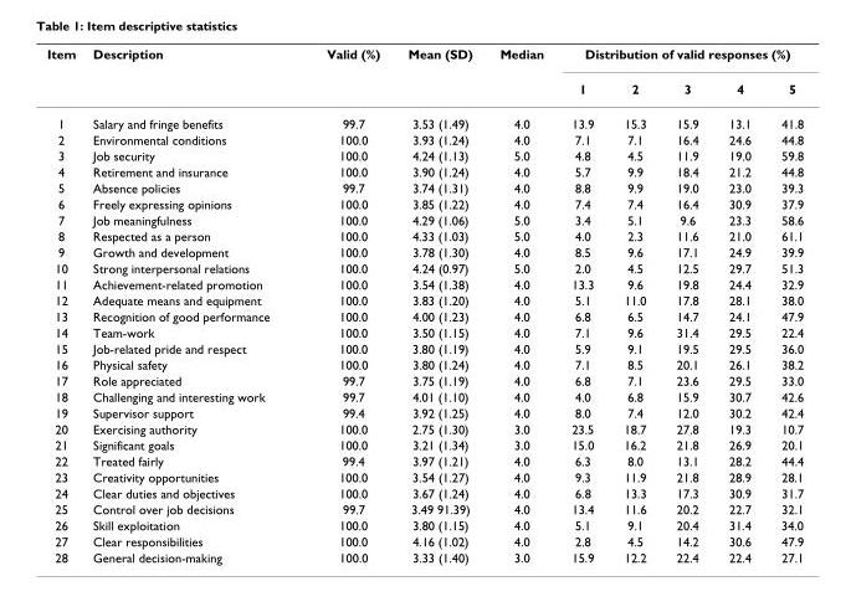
<table><thead><tr><td rowspan="2">Item</td><td rowspan="2">Description</td><td rowspan="2">Valid (%)</td><td rowspan="2">Mean (SD)</td><td rowspan="2">Median</td><td colspan="5">Distribution of valid responses (%)</td></tr><tr><td>1</td><td>2</td><td>3</td><td>4</td><td>5</td></tr></thead><tbody><tr><td>1</td><td>Salary and fringe benefits</td><td>99.7</td><td>3.53 (1.49)</td><td>4.0</td><td>13.9</td><td>15.3</td><td>15.9</td><td>13.1</td><td>41.8</td></tr><tr><td>2</td><td>Environmental conditions</td><td>100.0</td><td>3.93 (1.24)</td><td>4.0</td><td>7.1</td><td>7.1</td><td>16.4</td><td>24.6</td><td>44.8</td></tr><tr><td>3</td><td>Job security</td><td>100.0</td><td>4.24 (1.13)</td><td>5.0</td><td>4.8</td><td>4.5</td><td>11.9</td><td>19.0</td><td>59.8</td></tr><tr><td>4</td><td>Retirement and insurance</td><td>100.0</td><td>3.90 (1.24)</td><td>4.0</td><td>5.7</td><td>9.9</td><td>18.4</td><td>21.2</td><td>44.8</td></tr><tr><td>5</td><td>Absence policies</td><td>99.7</td><td>3.74 (1.31)</td><td>4.0</td><td>8.8</td><td>9.9</td><td>19.0</td><td>23.0</td><td>39.3</td></tr><tr><td>6</td><td>Freely expressing opinions</td><td>100.0</td><td>3.85 (1.22)</td><td>4.0</td><td>7.4</td><td>7.4</td><td>16.4</td><td>30.9</td><td>37.9</td></tr><tr><td>7</td><td>Job meaningfulness</td><td>100.0</td><td>4.29 (1.06)</td><td>5.0</td><td>3.4</td><td>5.1</td><td>9.6</td><td>23.3</td><td>58.6</td></tr><tr><td>8</td><td>Respected as a person</td><td>100.0</td><td>4.33 (1.03)</td><td>5.0</td><td>4.0</td><td>2.3</td><td>11.6</td><td>21.0</td><td>61.1</td></tr><tr><td>9</td><td>Growth and development</td><td>100.0</td><td>3.78 (1.30)</td><td>4.0</td><td>8.5</td><td>9.6</td><td>17.1</td><td>24.9</td><td>39.9</td></tr><tr><td>10</td><td>Strong interpersonal relations</td><td>100.0</td><td>4.24 (0.97)</td><td>5.0</td><td>2.0</td><td>4.5</td><td>12.5</td><td>29.7</td><td>51.3</td></tr><tr><td>11</td><td>Achievement-related promotion</td><td>100.0</td><td>3.54 (1.38)</td><td>4.0</td><td>13.3</td><td>9.6</td><td>19.8</td><td>24.4</td><td>32.9</td></tr><tr><td>12</td><td>Adequate means and equipment</td><td>100.0</td><td>3.83 (1.20)</td><td>4.0</td><td>5.1</td><td>11.0</td><td>17.8</td><td>28.1</td><td>38.0</td></tr><tr><td>13</td><td>Recognition of good performance</td><td>100.0</td><td>4.00 (1.23)</td><td>4.0</td><td>6.8</td><td>6.5</td><td>14.7</td><td>24.1</td><td>47.9</td></tr><tr><td>14</td><td>Team-work</td><td>100.0</td><td>3.50 (1.15)</td><td>4.0</td><td>7.1</td><td>9.6</td><td>31.4</td><td>29.5</td><td>22.4</td></tr><tr><td>15</td><td>Job-related pride and respect</td><td>100.0</td><td>3.80 (1.19)</td><td>4.0</td><td>5.9</td><td>9.1</td><td>19.5</td><td>29.5</td><td>36.0</td></tr><tr><td>16</td><td>Physical safety</td><td>100.0</td><td>3.80 (1.24)</td><td>4.0</td><td>7.1</td><td>8.5</td><td>20.1</td><td>26.1</td><td>38.2</td></tr><tr><td>17</td><td>Role appreciated</td><td>99.7</td><td>3.75 (1.19)</td><td>4.0</td><td>6.8</td><td>7.1</td><td>23.6</td><td>29.5</td><td>33.0</td></tr><tr><td>18</td><td>Challenging and interesting work</td><td>99.7</td><td>4.01 (1.10)</td><td>4.0</td><td>4.0</td><td>6.8</td><td>15.9</td><td>30.7</td><td>42.6</td></tr><tr><td>19</td><td>Supervisor support</td><td>99.4</td><td>3.92 (1.25)</td><td>4.0</td><td>8.0</td><td>7.4</td><td>12.0</td><td>30.2</td><td>42.4</td></tr><tr><td>20</td><td>Exercising authority</td><td>100.0</td><td>2.75 (1.30)</td><td>3.0</td><td>23.5</td><td>18.7</td><td>27.8</td><td>19.3</td><td>10.7</td></tr><tr><td>21</td><td>Significant goals</td><td>100.0</td><td>3.21 (1.34)</td><td>3.0</td><td>15.0</td><td>16.2</td><td>21.8</td><td>26.9</td><td>20.1</td></tr><tr><td>22</td><td>Treated fairly</td><td>99.4</td><td>3.97 (1.21)</td><td>4.0</td><td>6.3</td><td>8.0</td><td>13.1</td><td>28.2</td><td>44.4</td></tr><tr><td>23</td><td>Creativity opportunities</td><td>100.0</td><td>3.54 (1.27)</td><td>4.0</td><td>9.3</td><td>11.9</td><td>21.8</td><td>28.9</td><td>28.1</td></tr><tr><td>24</td><td>Clear duties and objectives</td><td>100.0</td><td>3.67 (1.24)</td><td>4.0</td><td>6.8</td><td>13.3</td><td>17.3</td><td>30.9</td><td>31.7</td></tr><tr><td>25</td><td>Control over job decisions</td><td>99.7</td><td>3.49 91.39)</td><td>4.0</td><td>13.4</td><td>11.6</td><td>20.2</td><td>22.7</td><td>32.1</td></tr><tr><td>26</td><td>Skill exploitation</td><td>100.0</td><td>3.80 (1.15)</td><td>4.0</td><td>5.1</td><td>9.1</td><td>20.4</td><td>31.4</td><td>34.0</td></tr><tr><td>27</td><td>Clear responsibilities</td><td>100.0</td><td>4.16 (1.02)</td><td>4.0</td><td>2.8</td><td>4.5</td><td>14.2</td><td>30.6</td><td>47.9</td></tr><tr><td>28</td><td>General decision-making</td><td>100.0</td><td>3.33 (1.40)</td><td>3.0</td><td>15.9</td><td>12.2</td><td>22.4</td><td>22.4</td><td>27.1</td></tr></tbody></table>